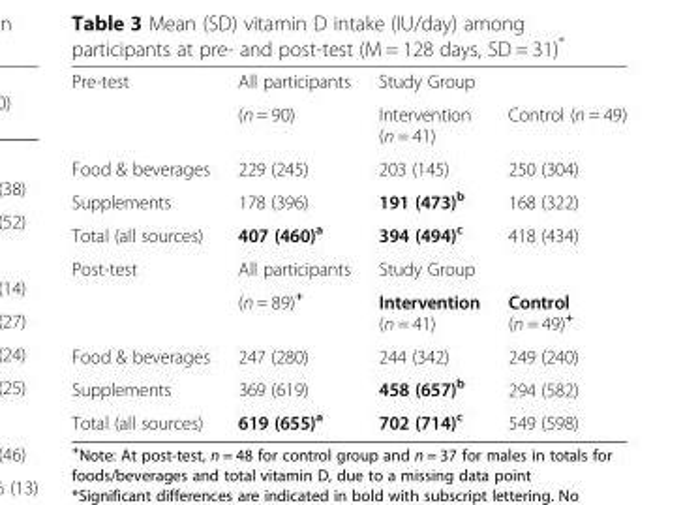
<table><tbody><tr><td rowspan="2">Pre-test</td><td>All participants</td><td colspan="2">Study Group</td></tr><tr><td>(n = 90)</td><td>Intervention (n = 41)</td><td>Control (n = 49)</td></tr><tr><td>Food &amp; beverages</td><td>229 (245)</td><td>203 (145)</td><td>250 (304)</td></tr><tr><td>Supplements</td><td>178 (396)</td><td>191 (473)<sup>b</sup></td><td>168 (322)</td></tr><tr><td>Total (all sources)</td><td>407 (460)<sup>a</sup></td><td>394 (494)<sup>c</sup></td><td>418 (434)</td></tr><tr><td rowspan="2">Post-test</td><td>All participants</td><td colspan="2">Study Group</td></tr><tr><td>(n = 89)<sup>+</sup></td><td>Intervention (n = 41)</td><td>Control (n = 49)<sup>+</sup></td></tr><tr><td>Food &amp; beverages</td><td>247 (280)</td><td>244 (342)</td><td>249 (240)</td></tr><tr><td>Supplements</td><td>369 (619)</td><td>458 (657)<sup>b</sup></td><td>294 (582)</td></tr><tr><td>Total (all sources)</td><td>619 (655)<sup>a</sup></td><td>702 (714)<sup>c</sup></td><td>549 (598)</td></tr></tbody></table>